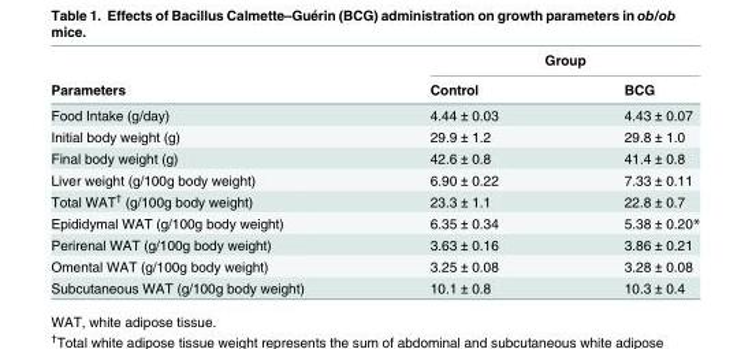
<table><thead><tr><td rowspan="2">Parameters</td><td colspan="2">Group</td></tr><tr><td>Control</td><td>BCG</td></tr></thead><tbody><tr><td>Food Intake (g/day)</td><td>4.44 ± 0.03</td><td>4.43 ± 0.07</td></tr><tr><td>Initial body weight (g)</td><td>29.9 ± 1.2</td><td>29.8 ± 1.0</td></tr><tr><td>Final body weight (g)</td><td>42.6 ± 0.8</td><td>41.4 ± 0.8</td></tr><tr><td>Liver weight (g/100g body weight)</td><td>6.90 ± 0.22</td><td>7.33 ± 0.11</td></tr><tr><td>Total WAT<sup>†</sup> (g/100g body weight)</td><td>23.3 ± 1.1</td><td>22.8 ± 0.7</td></tr><tr><td>Epididymal WAT (g/100g body weight)</td><td>6.35 ± 0.34</td><td>5.38 ± 0.20*</td></tr><tr><td>Perirenal WAT (g/100g body weight)</td><td>3.63 ± 0.16</td><td>3.86 ± 0.21</td></tr><tr><td>Omental WAT (g/100g body weight)</td><td>3.25 ± 0.08</td><td>3.28 ± 0.08</td></tr><tr><td>Subcutaneous WAT (g/100g body weight)</td><td>10.1 ± 0.8</td><td>10.3 ± 0.4</td></tr></tbody></table>